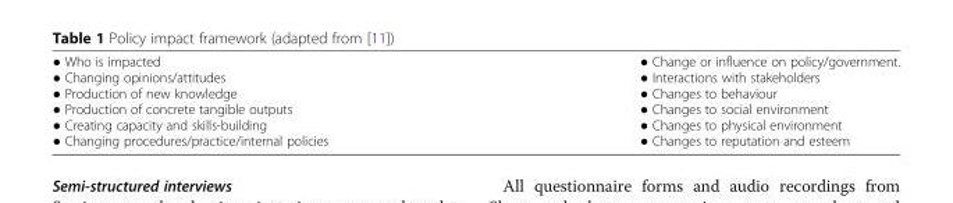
<table><tbody><tr><td>● Who is impacted ● Changing opinions/attitudes ● Production of new knowledge ● Production of concrete tangible outputs ● Creating capacity and skills-building ● Changing procedures/practice/internal policies</td><td>● Change or influence on policy/government. ● Interactions with stakeholders ● Changes to behaviour ● Changes to social environment ● Changes to physical environment ● Changes to reputation and esteem</td></tr></tbody></table>